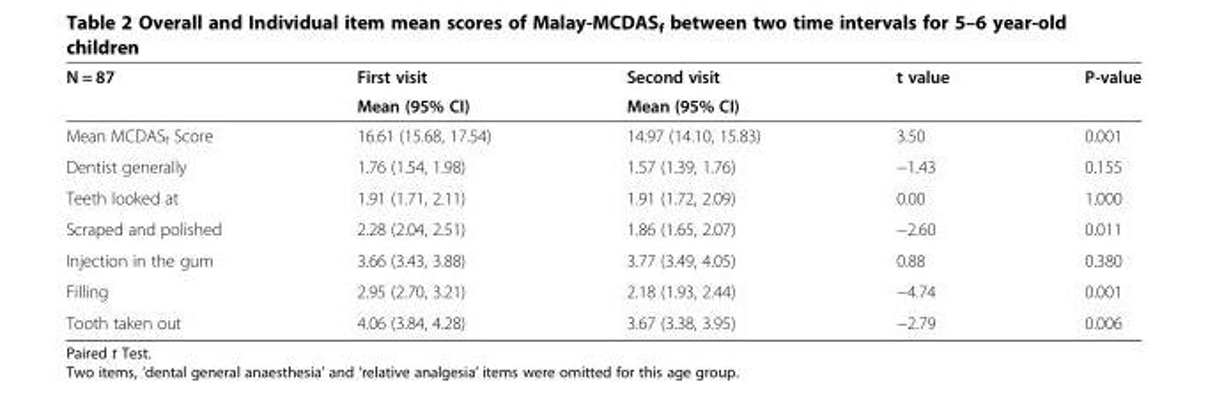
<table><thead><tr><td rowspan="2">N = 87</td><td rowspan="2">First visit Mean (95% CI)</td><td rowspan="2">Second visit Mean (95% CI)</td><td rowspan="2">t value</td><td rowspan="2">P-value</td></tr><tr></tr></thead><tbody><tr><td>Mean MCDAS<sub>f</sub> Score</td><td>16.61 (15.68, 17.54)</td><td>14.97 (14.10, 15.83)</td><td>3.50</td><td>0.001</td></tr><tr><td>Dentist generally</td><td>1.76 (1.54, 1.98)</td><td>1.57 (1.39, 1.76)</td><td>−1.43</td><td>0.155</td></tr><tr><td>Teeth looked at</td><td>1.91 (1.71, 2.11)</td><td>1.91 (1.72, 2.09)</td><td>0.00</td><td>1.000</td></tr><tr><td>Scraped and polished</td><td>2.28 (2.04, 2.51)</td><td>1.86 (1.65, 2.07)</td><td>−2.60</td><td>0.011</td></tr><tr><td>Injection in the gum</td><td>3.66 (3.43, 3.88)</td><td>3.77 (3.49, 4.05)</td><td>0.88</td><td>0.380</td></tr><tr><td>Filling</td><td>2.95 (2.70, 3.21)</td><td>2.18 (1.93, 2.44)</td><td>−4.74</td><td>0.001</td></tr><tr><td>Tooth taken out</td><td>4.06 (3.84, 4.28)</td><td>3.67 (3.38, 3.95)</td><td>−2.79</td><td>0.006</td></tr></tbody></table>